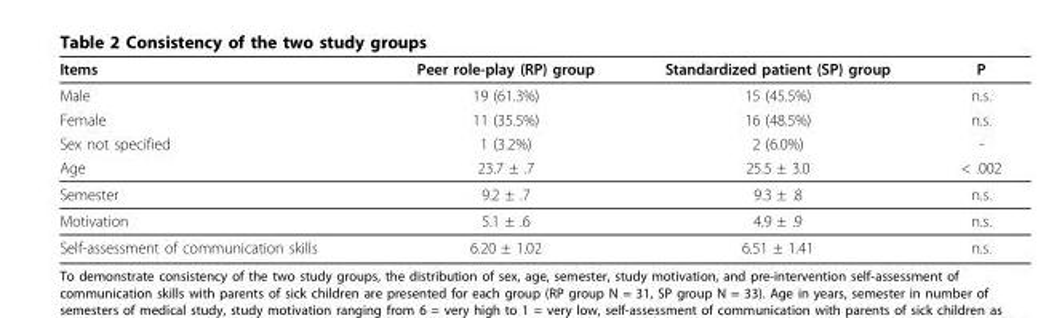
<table><thead><tr><td>Items</td><td>Peer role-play (RP) group</td><td>Standardized patient (SP) group</td><td>P</td></tr></thead><tbody><tr><td>Male</td><td>19 (61.3%)</td><td>15 (45.5%)</td><td>n.s.</td></tr><tr><td>Female</td><td>11 (35.5%)</td><td>16 (48.5%)</td><td>n.s.</td></tr><tr><td>Sex not specified</td><td>1 (3.2%)</td><td>2 (6.0%)</td><td>-</td></tr><tr><td>Age</td><td>23.7 ± .7</td><td>25.5 ± 3.0</td><td>&lt; .002</td></tr><tr><td>Semester</td><td>9.2 ± .7</td><td>9.3 ± .8</td><td>n.s.</td></tr><tr><td>Motivation</td><td>5.1 ± .6</td><td>4.9 ± .9</td><td>n.s.</td></tr><tr><td>Self-assessment of communication skills</td><td>6.20 ± 1.02</td><td>6.51 ± 1.41</td><td>n.s.</td></tr></tbody></table>